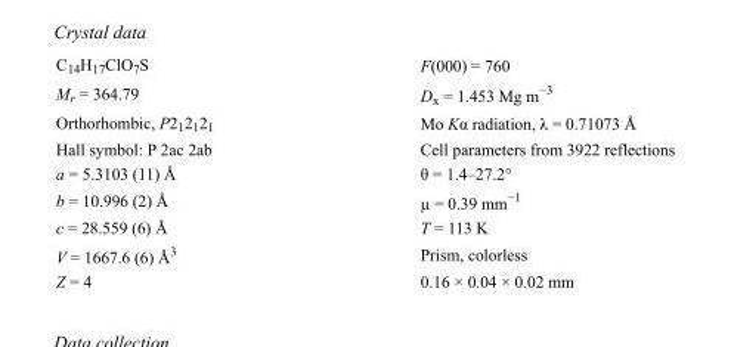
<table><tbody><tr><td>C<sub>14</sub>H<sub>17</sub>ClO<sub>7</sub>S</td><td>F(000) = 760</td></tr><tr><td>M<sub>r</sub> = 364.79</td><td>D<sub>x</sub> = 1.453 Mg m<sup>−3</sup></td></tr><tr><td>Orthorhombic, P2<sub>1</sub>2<sub>1</sub>2<sub>1</sub></td><td>Mo Kα radiation, λ = 0.71073 Å</td></tr><tr><td>Hall symbol: P 2ac 2ab</td><td>Cell parameters from 3922 reflections</td></tr><tr><td>a = 5.3103 (11) Å</td><td>θ = 1.4–27.2°</td></tr><tr><td>b = 10.996 (2) Å</td><td>µ = 0.39 mm<sup>−1</sup></td></tr><tr><td>c = 28.559 (6) Å</td><td>T = 113 K</td></tr><tr><td>V = 1667.6 (6) Å<sup>3</sup></td><td>Prism, colorless</td></tr><tr><td>Z = 4</td><td>0.16 × 0.04 × 0.02 mm</td></tr></tbody></table>